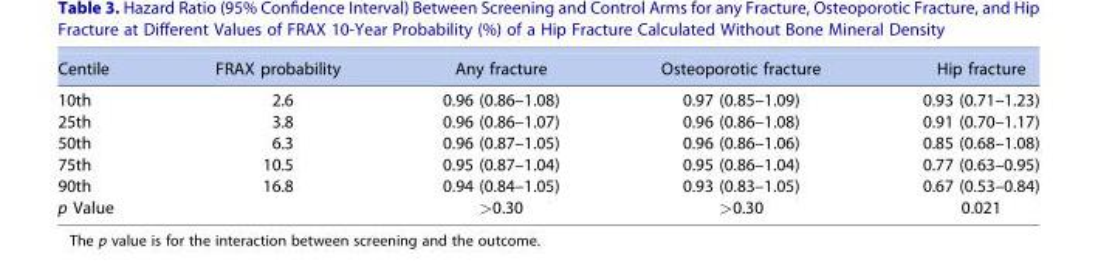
<table><thead><tr><td>Centile</td><td>FRAX probability</td><td>Any fracture</td><td>Osteoporotic fracture</td><td>Hip fracture</td></tr></thead><tbody><tr><td>10th</td><td>2.6</td><td>0.96 (0.86–1.08)</td><td>0.97 (0.85–1.09)</td><td>0.93 (0.71–1.23)</td></tr><tr><td>25th</td><td>3.8</td><td>0.96 (0.86–1.07)</td><td>0.96 (0.86–1.08)</td><td>0.91 (0.70–1.17)</td></tr><tr><td>50th</td><td>6.3</td><td>0.96 (0.87–1.05)</td><td>0.96 (0.86–1.06)</td><td>0.85 (0.68–1.08)</td></tr><tr><td>75th</td><td>10.5</td><td>0.95 (0.87–1.04)</td><td>0.95 (0.86–1.04)</td><td>0.77 (0.63–0.95)</td></tr><tr><td>90th</td><td>16.8</td><td>0.94 (0.84–1.05)</td><td>0.93 (0.83–1.05)</td><td>0.67 (0.53–0.84)</td></tr><tr><td>p Value</td><td></td><td>&gt;0.30</td><td>&gt;0.30</td><td>0.021</td></tr></tbody></table>